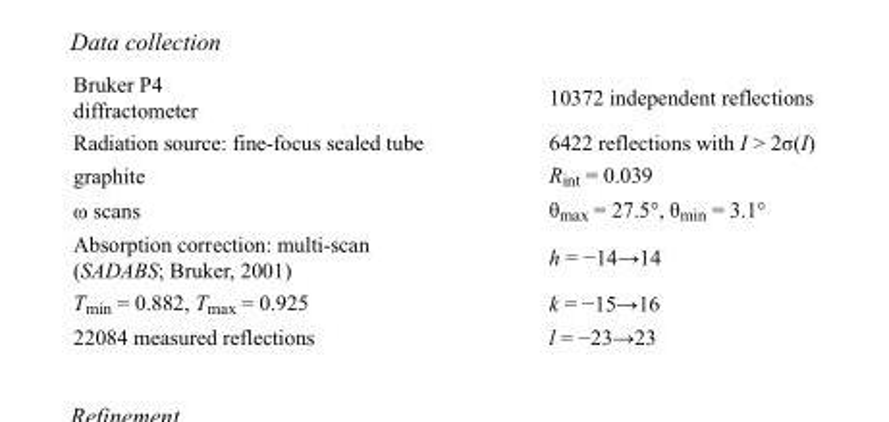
<table><tbody><tr><td>Bruker P4 diffractometer</td><td>10372 independent reflections</td></tr><tr><td>Radiation source: fine-focus sealed tube</td><td>6422 reflections with I &gt; 2σ(I)</td></tr><tr><td>graphite</td><td>R<sub>int</sub> = 0.039</td></tr><tr><td>ω scans</td><td>θ<sub>max</sub> = 27.5°, θ<sub>min</sub> = 3.1°</td></tr><tr><td>Absorption correction: multi-scan (SADABS; Bruker, 2001)</td><td>h = −14→14</td></tr><tr><td>T<sub>min</sub> = 0.882, T<sub>max</sub> = 0.925</td><td>k = −15→16</td></tr><tr><td>22084 measured reflections</td><td>l = −23→23</td></tr></tbody></table>